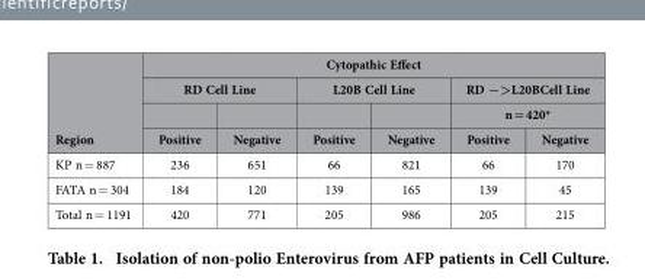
<table><thead><tr><td rowspan="4">Region</td><td colspan="6">Cytopathic Effect</td></tr><tr><td colspan="2">RD Cell Line</td><td colspan="2">L20B Cell Line</td><td rowspan="2" colspan="2">RD −&gt;L20BCell Line n = 420*</td></tr><tr><td rowspan="2">Positive</td><td rowspan="2">Negative</td><td rowspan="2">Positive</td><td rowspan="2">Negative</td></tr><tr><td>Positive</td><td>Negative</td></tr></thead><tbody><tr><td>KP n = 887</td><td>236</td><td>651</td><td>66</td><td>821</td><td>66</td><td>170</td></tr><tr><td>FATA n = 304</td><td>184</td><td>120</td><td>139</td><td>165</td><td>139</td><td>45</td></tr><tr><td>Total n = 1191</td><td>420</td><td>771</td><td>205</td><td>986</td><td>205</td><td>215</td></tr></tbody></table>